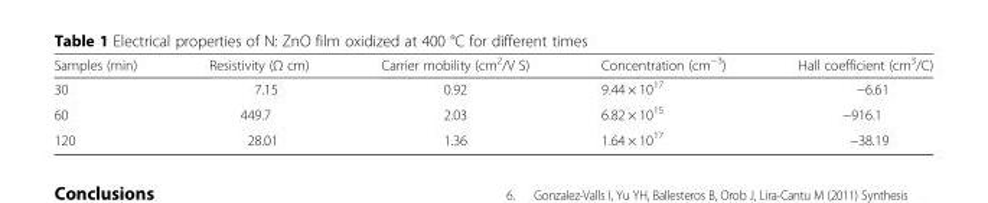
<table><thead><tr><td>Samples (min)</td><td>Resistivity (Ω cm)</td><td>Carrier mobility (cm<sup>2</sup>/V S)</td><td>Concentration (cm<sup>−3</sup>)</td><td>Hall coefficient (cm<sup>3</sup>/C)</td></tr></thead><tbody><tr><td>30</td><td>7.15</td><td>0.92</td><td>9.44 × 10<sup>17</sup></td><td>−6.61</td></tr><tr><td>60</td><td>449.7</td><td>2.03</td><td>6.82 × 10<sup>15</sup></td><td>−916.1</td></tr><tr><td>120</td><td>28.01</td><td>1.36</td><td>1.64 × 10<sup>17</sup></td><td>−38.19</td></tr></tbody></table>